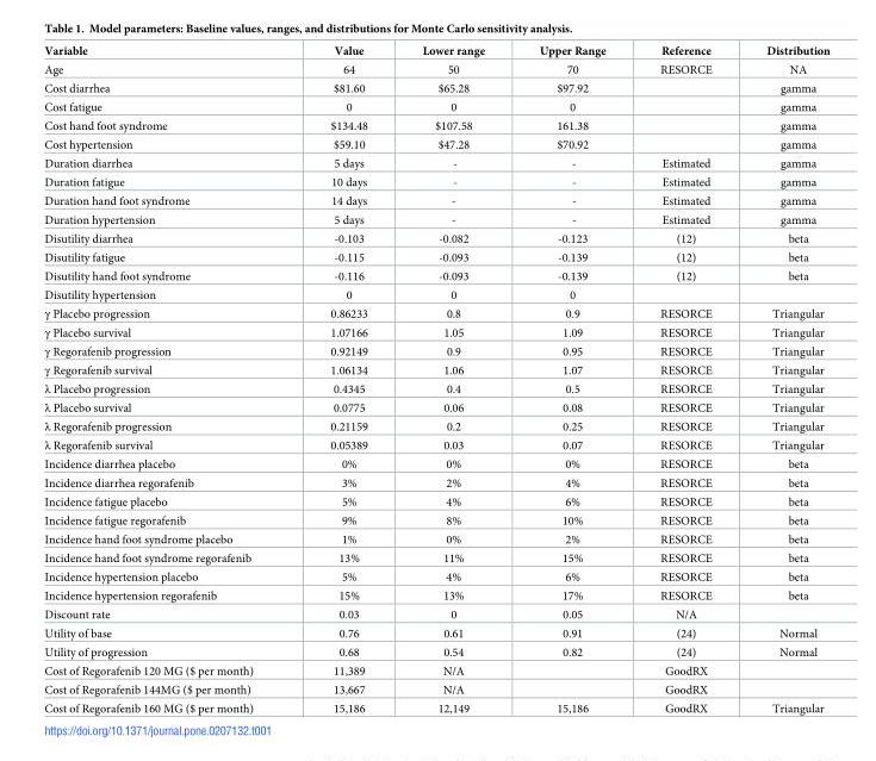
<table><thead><tr><td>Variable</td><td>Value</td><td>Lower range</td><td>Upper Range</td><td>Reference</td><td>Distribution</td></tr></thead><tbody><tr><td>Age</td><td>64</td><td>50</td><td>70</td><td>RESORCE</td><td>NA</td></tr><tr><td>Cost diarrhea</td><td>$81.60</td><td>$65.28</td><td>$97.92</td><td></td><td>gamma</td></tr><tr><td>Cost fatigue</td><td>0</td><td>0</td><td>0</td><td></td><td>gamma</td></tr><tr><td>Cost hand foot syndrome</td><td>$134.48</td><td>$107.58</td><td>161.38</td><td></td><td>gamma</td></tr><tr><td>Cost hypertension</td><td>$59.10</td><td>$47.28</td><td>$70.92</td><td></td><td>gamma</td></tr><tr><td>Duration diarrhea</td><td>5 days</td><td>-</td><td>-</td><td>Estimated</td><td>gamma</td></tr><tr><td>Duration fatigue</td><td>10 days</td><td>-</td><td>-</td><td>Estimated</td><td>gamma</td></tr><tr><td>Duration hand foot syndrome</td><td>14 days</td><td>-</td><td>-</td><td>Estimated</td><td>gamma</td></tr><tr><td>Duration hypertension</td><td>5 days</td><td>-</td><td>-</td><td>Estimated</td><td>gamma</td></tr><tr><td>Disutility diarrhea</td><td>-0.103</td><td>-0.082</td><td>-0.123</td><td>(12)</td><td>beta</td></tr><tr><td>Disutility fatigue</td><td>-0.115</td><td>-0.093</td><td>-0.139</td><td>(12)</td><td>beta</td></tr><tr><td>Disutility hand foot syndrome</td><td>-0.116</td><td>-0.093</td><td>-0.139</td><td>(12)</td><td>beta</td></tr><tr><td>Disutility hypertension</td><td>0</td><td>0</td><td>0</td><td></td><td></td></tr><tr><td>γ Placebo progression</td><td>0.86233</td><td>0.8</td><td>0.9</td><td>RESORCE</td><td>Triangular</td></tr><tr><td>γ Placebo survival</td><td>1.07166</td><td>1.05</td><td>1.09</td><td>RESORCE</td><td>Triangular</td></tr><tr><td>γ Regorafenib progression</td><td>0.92149</td><td>0.9</td><td>0.95</td><td>RESORCE</td><td>Triangular</td></tr><tr><td>γ Regorafenib survival</td><td>1.06134</td><td>1.06</td><td>1.07</td><td>RESORCE</td><td>Triangular</td></tr><tr><td>λ Placebo progression</td><td>0.4345</td><td>0.4</td><td>0.5</td><td>RESORCE</td><td>Triangular</td></tr><tr><td>λ Placebo survival</td><td>0.0775</td><td>0.06</td><td>0.08</td><td>RESORCE</td><td>Triangular</td></tr><tr><td>λ Regorafenib progression</td><td>0.21159</td><td>0.2</td><td>0.25</td><td>RESORCE</td><td>Triangular</td></tr><tr><td>λ Regorafenib survival</td><td>0.05389</td><td>0.03</td><td>0.07</td><td>RESORCE</td><td>Triangular</td></tr><tr><td>Incidence diarrhea placebo</td><td>0%</td><td>0%</td><td>0%</td><td>RESORCE</td><td>beta</td></tr><tr><td>Incidence diarrhea regorafenib</td><td>3%</td><td>2%</td><td>4%</td><td>RESORCE</td><td>beta</td></tr><tr><td>Incidence fatigue placebo</td><td>5%</td><td>4%</td><td>6%</td><td>RESORCE</td><td>beta</td></tr><tr><td>Incidence fatigue regorafenib</td><td>9%</td><td>8%</td><td>10%</td><td>RESORCE</td><td>beta</td></tr><tr><td>Incidence hand foot syndrome placebo</td><td>1%</td><td>0%</td><td>2%</td><td>RESORCE</td><td>beta</td></tr><tr><td>Incidence hand foot syndrome regorafenib</td><td>13%</td><td>11%</td><td>15%</td><td>RESORCE</td><td>beta</td></tr><tr><td>Incidence hypertension placebo</td><td>5%</td><td>4%</td><td>6%</td><td>RESORCE</td><td>beta</td></tr><tr><td>Incidence hypertension regorafenib</td><td>15%</td><td>13%</td><td>17%</td><td>RESORCE</td><td>beta</td></tr><tr><td>Discount rate</td><td>0.03</td><td>0</td><td>0.05</td><td>N/A</td><td></td></tr><tr><td>Utility of base</td><td>0.76</td><td>0.61</td><td>0.91</td><td>(24)</td><td>Normal</td></tr><tr><td>Utility of progression</td><td>0.68</td><td>0.54</td><td>0.82</td><td>(24)</td><td>Normal</td></tr><tr><td>Cost of Regorafenib 120 MG ($ per month)</td><td>11,389</td><td>N/A</td><td></td><td>GoodRX</td><td></td></tr><tr><td>Cost of Regorafenib 144MG ($ per month)</td><td>13,667</td><td>N/A</td><td></td><td>GoodRX</td><td></td></tr><tr><td>Cost of Regorafenib 160 MG ($ per month)</td><td>15,186</td><td>12,149</td><td>15,186</td><td>GoodRX</td><td>Triangular</td></tr></tbody></table>